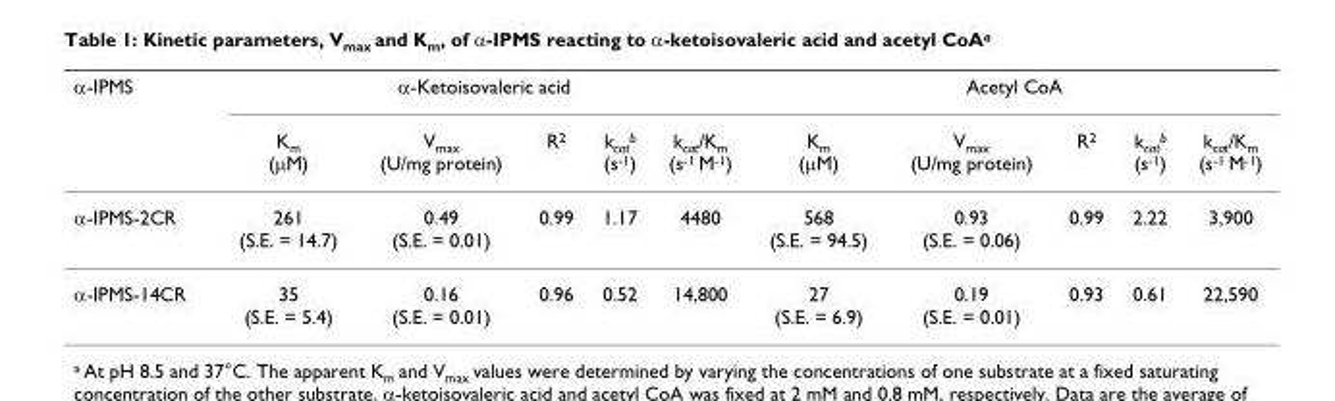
<table><thead><tr><td rowspan="2">α-IPMS</td><td colspan="5">α-Ketoisovaleric acid</td><td colspan="5">Acetyl CoA</td></tr><tr><td>K<sub>m</sub> (μM)</td><td>V<sub>max</sub> (U/mg protein)</td><td>R<sup>2</sup></td><td>k<sub>cat</sub><sup>b</sup> (s<sup>-1</sup>)</td><td>k<sub>cat</sub>/K<sub>m</sub> (s<sup>-1</sup> M<sup>-1</sup>)</td><td>K<sub>m</sub> (μM)</td><td>V<sub>max</sub> (U/mg protein)</td><td>R<sup>2</sup></td><td>k<sub>cat</sub><sup>b</sup> (s<sup>-1</sup>)</td><td>k<sub>cat</sub>/K<sub>m</sub> (s<sup>-1</sup> M<sup>-1</sup>)</td></tr></thead><tbody><tr><td>α-IPMS-2CR</td><td>261 (S.E. = 14.7)</td><td>0.49 (S.E. = 0.01)</td><td>0.99</td><td>1.17</td><td>4480</td><td>568 (S.E. = 94.5)</td><td>0.93 (S.E. = 0.06)</td><td>0.99</td><td>2.22</td><td>3,900</td></tr><tr><td>α-IPMS-14CR</td><td>35 (S.E. = 5.4)</td><td>0.16 (S.E. = 0.01)</td><td>0.96</td><td>0.52</td><td>14,800</td><td>27 (S.E. = 6.9)</td><td>0.19 (S.E. = 0.01)</td><td>0.93</td><td>0.61</td><td>22,590</td></tr></tbody></table>